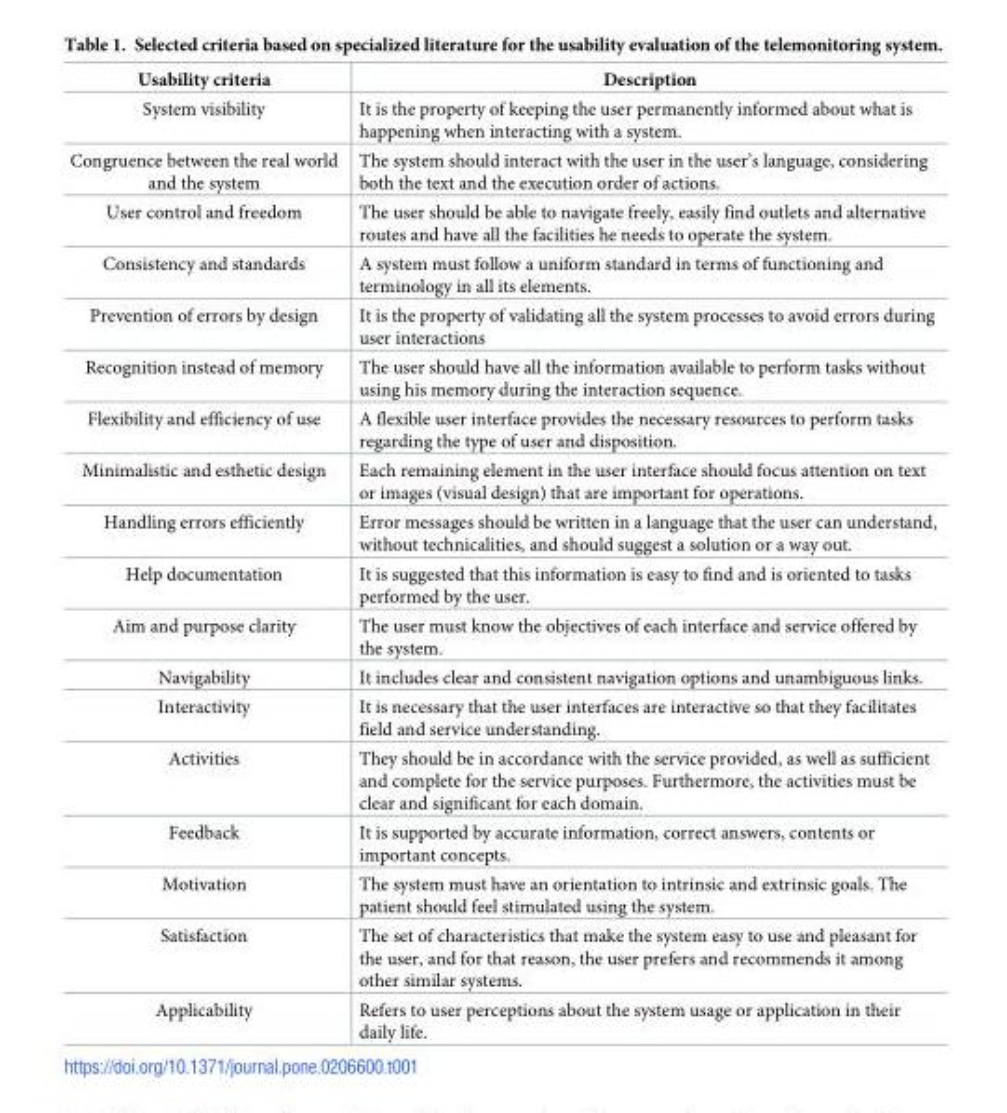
<table><thead><tr><td>Usability criteria</td><td>Description</td></tr></thead><tbody><tr><td>System visibility</td><td>It is the property of keeping the user permanently informed about what is happening when interacting with a system.</td></tr><tr><td>Congruence between the real world and the system</td><td>The system should interact with the user in the user’s language, considering both the text and the execution order of actions.</td></tr><tr><td>User control and freedom</td><td>The user should be able to navigate freely, easily find outlets and alternative routes and have all the facilities he needs to operate the system.</td></tr><tr><td>Consistency and standards</td><td>A system must follow a uniform standard in terms of functioning and terminology in all its elements.</td></tr><tr><td>Prevention of errors by design</td><td>It is the property of validating all the system processes to avoid errors during user interactions</td></tr><tr><td>Recognition instead of memory</td><td>The user should have all the information available to perform tasks without using his memory during the interaction sequence.</td></tr><tr><td>Flexibility and efficiency of use</td><td>A flexible user interface provides the necessary resources to perform tasks regarding the type of user and disposition.</td></tr><tr><td>Minimalistic and esthetic design</td><td>Each remaining element in the user interface should focus attention on text or images (visual design) that are important for operations.</td></tr><tr><td>Handling errors efficiently</td><td>Error messages should be written in a language that the user can understand, without technicalities, and should suggest a solution or a way out.</td></tr><tr><td>Help documentation</td><td>It is suggested that this information is easy to find and is oriented to tasks performed by the user.</td></tr><tr><td>Aim and purpose clarity</td><td>The user must know the objectives of each interface and service offered by the system.</td></tr><tr><td>Navigability</td><td>It includes clear and consistent navigation options and unambiguous links.</td></tr><tr><td>Interactivity</td><td>It is necessary that the user interfaces are interactive so that they facilitates field and service understanding.</td></tr><tr><td>Activities</td><td>They should be in accordance with the service provided, as well as sufficient and complete for the service purposes. Furthermore, the activities must be clear and significant for each domain.</td></tr><tr><td>Feedback</td><td>It is supported by accurate information, correct answers, contents or important concepts.</td></tr><tr><td>Motivation</td><td>The system must have an orientation to intrinsic and extrinsic goals. The patient should feel stimulated using the system.</td></tr><tr><td>Satisfaction</td><td>The set of characteristics that make the system easy to use and pleasant for the user, and for that reason, the user prefers and recommends it among other similar systems.</td></tr><tr><td>Applicability</td><td>Refers to user perceptions about the system usage or application in their daily life.</td></tr></tbody></table>